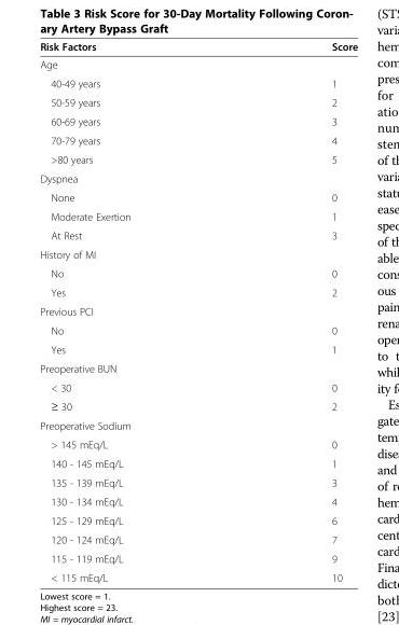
<table><thead><tr><td>Risk Factors</td><td>Score</td></tr></thead><tbody><tr><td colspan="2">Age</td></tr><tr><td>40-49 years</td><td>1</td></tr><tr><td>50-59 years</td><td>2</td></tr><tr><td>60-69 years</td><td>3</td></tr><tr><td>70-79 years</td><td>4</td></tr><tr><td>&gt;80 years</td><td>5</td></tr><tr><td colspan="2">Dyspnea</td></tr><tr><td>None</td><td>0</td></tr><tr><td>Moderate Exertion</td><td>1</td></tr><tr><td>At Rest</td><td>3</td></tr><tr><td colspan="2">History of MI</td></tr><tr><td>No</td><td>0</td></tr><tr><td>Yes</td><td>2</td></tr><tr><td colspan="2">Previous PCI</td></tr><tr><td>No</td><td>0</td></tr><tr><td>Yes</td><td>1</td></tr><tr><td colspan="2">Preoperative BUN</td></tr><tr><td>&lt; 30</td><td>0</td></tr><tr><td>≥ 30</td><td>2</td></tr><tr><td colspan="2">Preoperative Sodium</td></tr><tr><td>&gt; 145 mEq/L</td><td>0</td></tr><tr><td>140 - 145 mEq/L</td><td>1</td></tr><tr><td>135 - 139 mEq/L</td><td>3</td></tr><tr><td>130 - 134 mEq/L</td><td>4</td></tr><tr><td>125 - 129 mEq/L</td><td>6</td></tr><tr><td>120 - 124 mEq/L</td><td>7</td></tr><tr><td>115 - 119 mEq/L</td><td>9</td></tr><tr><td>&lt; 115 mEq/L</td><td>10</td></tr></tbody></table>